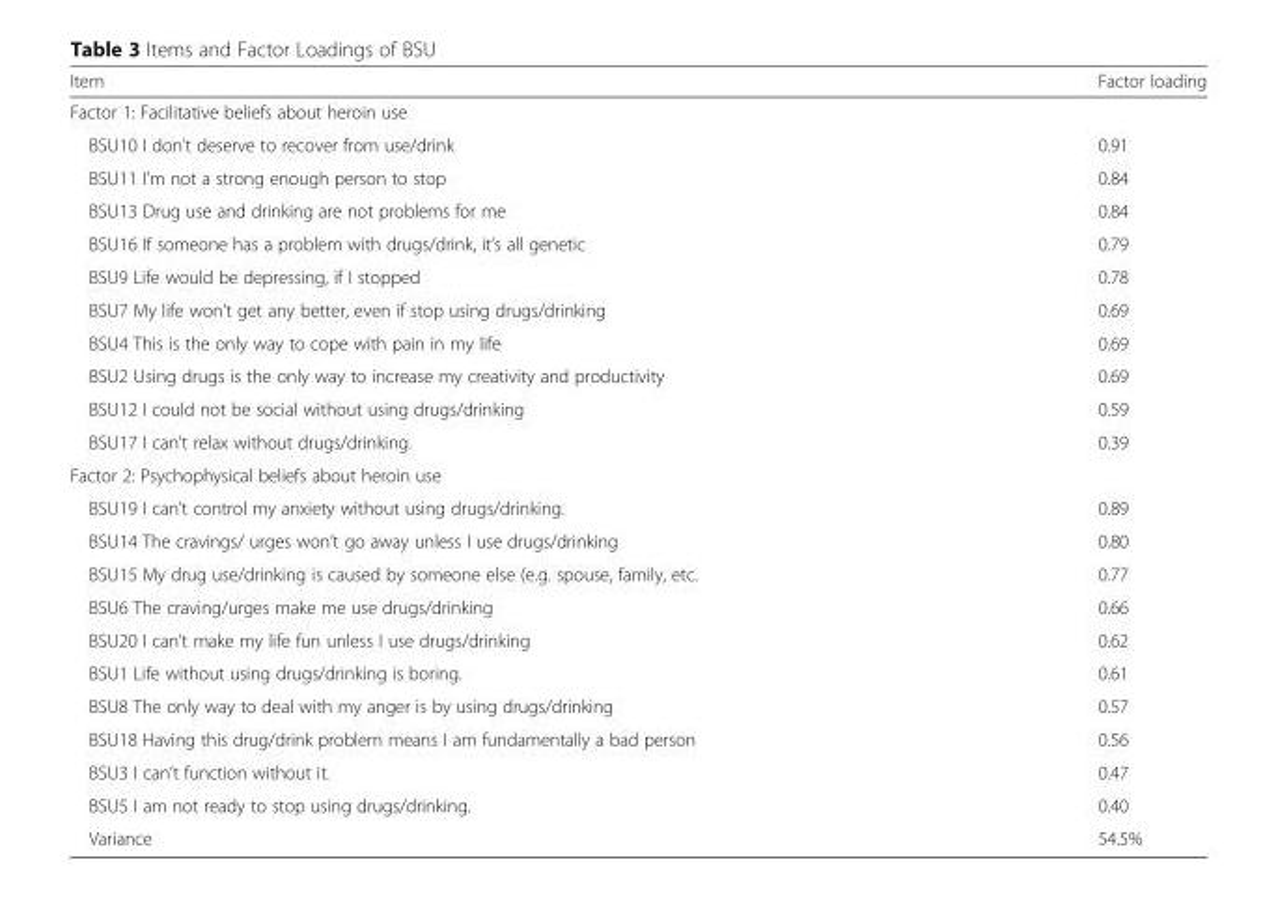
<table><thead><tr><td>Item</td><td>Factor loading</td></tr></thead><tbody><tr><td colspan="2">Factor 1: Facilitative beliefs about heroin use</td></tr><tr><td>BSU10 I don’t deserve to recover from use/drink</td><td>0.91</td></tr><tr><td>BSU11 I’m not a strong enough person to stop</td><td>0.84</td></tr><tr><td>BSU13 Drug use and drinking are not problems for me</td><td>0.84</td></tr><tr><td>BSU16 If someone has a problem with drugs/drink, it’s all genetic</td><td>0.79</td></tr><tr><td>BSU9 Life would be depressing, if I stopped</td><td>0.78</td></tr><tr><td>BSU7 My life won’t get any better, even if stop using drugs/drinking</td><td>0.69</td></tr><tr><td>BSU4 This is the only way to cope with pain in my life</td><td>0.69</td></tr><tr><td>BSU2 Using drugs is the only way to increase my creativity and productivity</td><td>0.69</td></tr><tr><td>BSU12 I could not be social without using drugs/drinking</td><td>0.59</td></tr><tr><td>BSU17 I can’t relax without drugs/drinking.</td><td>0.39</td></tr><tr><td colspan="2">Factor 2: Psychophysical beliefs about heroin use</td></tr><tr><td>BSU19 I can’t control my anxiety without using drugs/drinking.</td><td>0.89</td></tr><tr><td>BSU14 The cravings/ urges won’t go away unless I use drugs/drinking</td><td>0.80</td></tr><tr><td>BSU15 My drug use/drinking is caused by someone else (e.g. spouse, family, etc.</td><td>0.77</td></tr><tr><td>BSU6 The craving/urges make me use drugs/drinking</td><td>0.66</td></tr><tr><td>BSU20 I can’t make my life fun unless I use drugs/drinking</td><td>0.62</td></tr><tr><td>BSU1 Life without using drugs/drinking is boring.</td><td>0.61</td></tr><tr><td>BSU8 The only way to deal with my anger is by using drugs/drinking</td><td>0.57</td></tr><tr><td>BSU18 Having this drug/drink problem means I am fundamentally a bad person</td><td>0.56</td></tr><tr><td>BSU3 I can’t function without it.</td><td>0.47</td></tr><tr><td>BSU5 I am not ready to stop using drugs/drinking.</td><td>0.40</td></tr><tr><td>Variance</td><td>54.5%</td></tr></tbody></table>